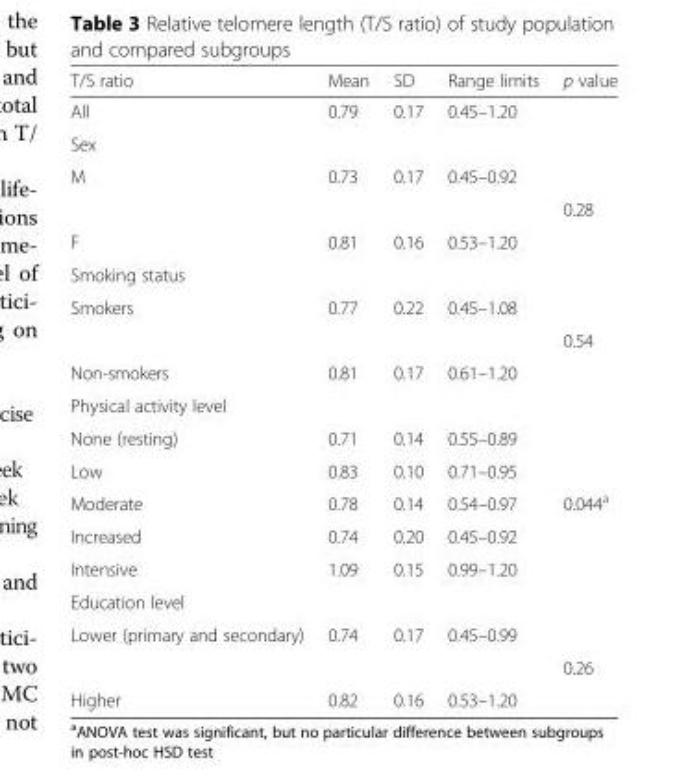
<table><thead><tr><td>T/S ratio</td><td>Mean</td><td>SD</td><td>Range limits</td><td>p value</td></tr></thead><tbody><tr><td>All</td><td>0.79</td><td>0.17</td><td>0.45–1.20</td><td></td></tr><tr><td colspan="5">Sex</td></tr><tr><td rowspan="2">M</td><td>0.73</td><td>0.17</td><td>0.45–0.92</td><td></td></tr><tr><td></td><td></td><td></td><td>0.28</td></tr><tr><td>F</td><td>0.81</td><td>0.16</td><td>0.53–1.20</td><td></td></tr><tr><td colspan="5">Smoking status</td></tr><tr><td rowspan="2">Smokers</td><td>0.77</td><td>0.22</td><td>0.45–1.08</td><td></td></tr><tr><td></td><td></td><td></td><td>0.54</td></tr><tr><td>Non-smokers</td><td>0.81</td><td>0.17</td><td>0.61–1.20</td><td></td></tr><tr><td colspan="5">Physical activity level</td></tr><tr><td>None (resting)</td><td>0.71</td><td>0.14</td><td>0.55–0.89</td><td></td></tr><tr><td>Low</td><td>0.83</td><td>0.10</td><td>0.71–0.95</td><td></td></tr><tr><td>Moderate</td><td>0.78</td><td>0.14</td><td>0.54–0.97</td><td>0.044<sup>a</sup></td></tr><tr><td>Increased</td><td>0.74</td><td>0.20</td><td>0.45–0.92</td><td></td></tr><tr><td>Intensive</td><td>1.09</td><td>0.15</td><td>0.99–1.20</td><td></td></tr><tr><td colspan="5">Education level</td></tr><tr><td rowspan="2">Lower (primary and secondary)</td><td>0.74</td><td>0.17</td><td>0.45–0.99</td><td></td></tr><tr><td></td><td></td><td></td><td>0.26</td></tr><tr><td>Higher</td><td>0.82</td><td>0.16</td><td>0.53–1.20</td><td></td></tr></tbody></table>